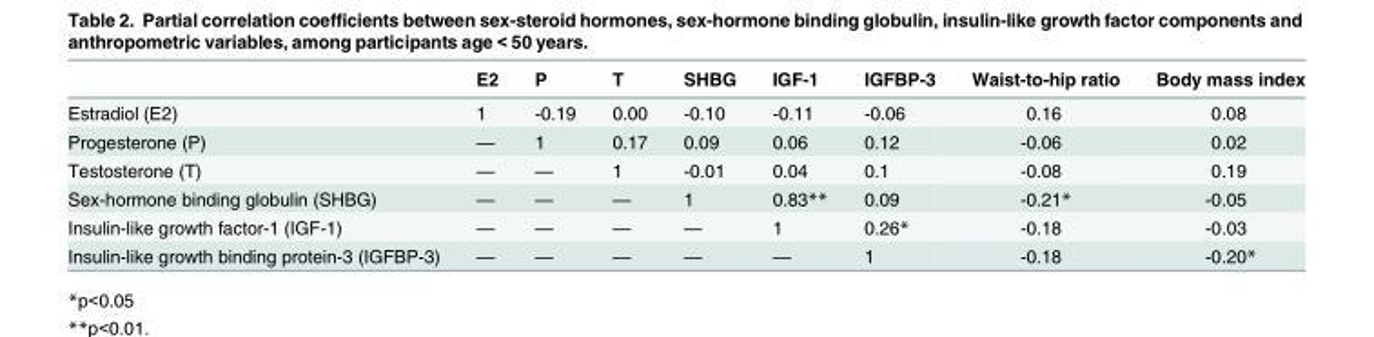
<table><thead><tr><td></td><td>E2</td><td>P</td><td>T</td><td>SHBG</td><td>IGF-1</td><td>IGFBP-3</td><td>Waist-to-hip ratio</td><td>Body mass index</td></tr></thead><tbody><tr><td>Estradiol (E2)</td><td>1</td><td>-0.19</td><td>0.00</td><td>-0.10</td><td>-0.11</td><td>-0.06</td><td>0.16</td><td>0.08</td></tr><tr><td>Progesterone (P)</td><td>—</td><td>1</td><td>0.17</td><td>0.09</td><td>0.06</td><td>0.12</td><td>-0.06</td><td>0.02</td></tr><tr><td>Testosterone (T)</td><td>—</td><td>—</td><td>1</td><td>-0.01</td><td>0.04</td><td>0.1</td><td>-0.08</td><td>0.19</td></tr><tr><td>Sex-hormone binding globulin (SHBG)</td><td>—</td><td>—</td><td>—</td><td>1</td><td>0.83**</td><td>0.09</td><td>-0.21*</td><td>-0.05</td></tr><tr><td>Insulin-like growth factor-1 (IGF-1)</td><td>—</td><td>—</td><td>—</td><td>—</td><td>1</td><td>0.26*</td><td>-0.18</td><td>-0.03</td></tr><tr><td>Insulin-like growth binding protein-3 (IGFBP-3)</td><td>—</td><td>—</td><td>—</td><td>—</td><td>—</td><td>1</td><td>-0.18</td><td>-0.20*</td></tr></tbody></table>